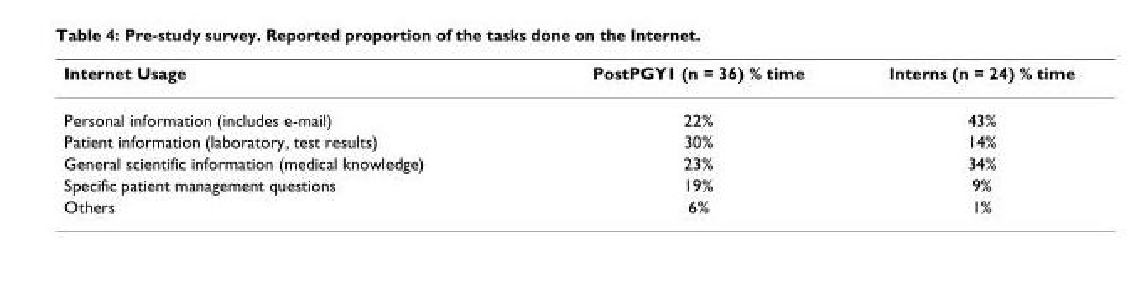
<table><thead><tr><td>Internet Usage</td><td>PostPGY1 (n = 36) % time</td><td>Interns (n = 24) % time</td></tr></thead><tbody><tr><td>Personal information (includes e-mail)</td><td>22%</td><td>43%</td></tr><tr><td>Patient information (laboratory, test results)</td><td>30%</td><td>14%</td></tr><tr><td>General scientific information (medical knowledge)</td><td>23%</td><td>34%</td></tr><tr><td>Specific patient management questions</td><td>19%</td><td>9%</td></tr><tr><td>Others</td><td>6%</td><td>1%</td></tr></tbody></table>